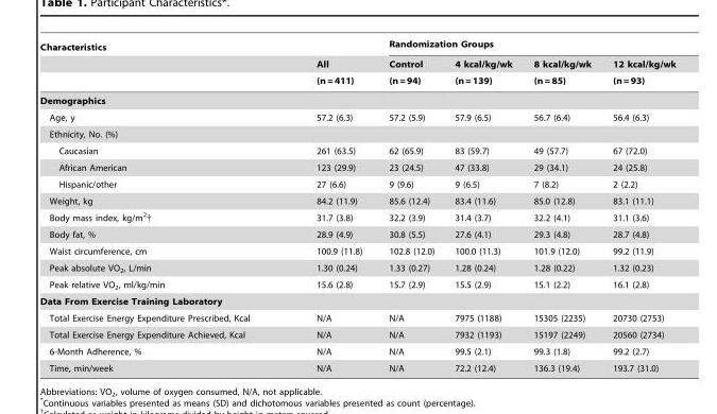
<table><thead><tr><td rowspan="3">Characteristics</td><td rowspan="3">All (n = 411)</td><td colspan="4">Randomization Groups</td></tr><tr><td rowspan="2">Control (n = 94)</td><td rowspan="2">4 kcal/kg/wk (n = 139)</td><td rowspan="2">8 kcal/kg/wk (n = 85)</td><td rowspan="2">12 kcal/kg/wk (n = 93)</td></tr><tr></tr></thead><tbody><tr><td colspan="6">Demographics</td></tr><tr><td>Age, y</td><td>57.2 (6.3)</td><td>57.2 (5.9)</td><td>57.9 (6.5)</td><td>56.7 (6.4)</td><td>56.4 (6.3)</td></tr><tr><td colspan="6">Ethnicity, No. (%)</td></tr><tr><td>Caucasian</td><td>261 (63.5)</td><td>62 (65.9)</td><td>83 (59.7)</td><td>49 (57.7)</td><td>67 (72.0)</td></tr><tr><td>African American</td><td>123 (29.9)</td><td>23 (24.5)</td><td>47 (33.8)</td><td>29 (34.1)</td><td>24 (25.8)</td></tr><tr><td>Hispanic/other</td><td>27 (6.6)</td><td>9 (9.6)</td><td>9 (6.5)</td><td>7 (8.2)</td><td>2 (2.2)</td></tr><tr><td>Weight, kg</td><td>84.2 (11.9)</td><td>85.6 (12.4)</td><td>83.4 (11.6)</td><td>85.0 (12.8)</td><td>83.1 (11.1)</td></tr><tr><td>Body mass index, kg/m<sup>2</sup>†</td><td>31.7 (3.8)</td><td>32.2 (3.9)</td><td>31.4 (3.7)</td><td>32.2 (4.1)</td><td>31.1 (3.6)</td></tr><tr><td>Body fat, %</td><td>28.9 (4.9)</td><td>30.8 (5.5)</td><td>27.6 (4.1)</td><td>29.3 (4.8)</td><td>28.7 (4.8)</td></tr><tr><td>Waist circumference, cm</td><td>100.9 (11.8)</td><td>102.8 (12.0)</td><td>100.0 (11.3)</td><td>101.9 (12.0)</td><td>99.2 (11.9)</td></tr><tr><td>Peak absolute VO<sub>2</sub>, L/min</td><td>1.30 (0.24)</td><td>1.33 (0.27)</td><td>1.28 (0.24)</td><td>1.28 (0.22)</td><td>1.32 (0.23)</td></tr><tr><td>Peak relative VO<sub>2</sub>, ml/kg/min</td><td>15.6 (2.8)</td><td>15.7 (2.9)</td><td>15.5 (2.9)</td><td>15.1 (2.2)</td><td>16.1 (2.8)</td></tr><tr><td colspan="6">Data From Exercise Training Laboratory</td></tr><tr><td>Total Exercise Energy Expenditure Prescribed, Kcal</td><td>N/A</td><td>N/A</td><td>7975 (1188)</td><td>15305 (2235)</td><td>20730 (2753)</td></tr><tr><td>Total Exercise Energy Expenditure Achieved, Kcal</td><td>N/A</td><td>N/A</td><td>7932 (1193)</td><td>15197 (2249)</td><td>20560 (2734)</td></tr><tr><td>6-Month Adherence, %</td><td>N/A</td><td>N/A</td><td>99.5 (2.1)</td><td>99.3 (1.8)</td><td>99.2 (2.7)</td></tr><tr><td>Time, min/week</td><td>N/A</td><td>N/A</td><td>72.2 (12.4)</td><td>136.3 (19.4)</td><td>193.7 (31.0)</td></tr></tbody></table>